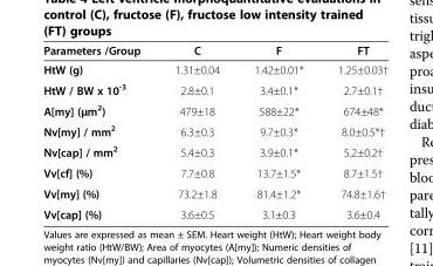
<table><thead><tr><td>Parameters /Group</td><td>C</td><td>F</td><td>FT</td></tr></thead><tbody><tr><td>HtW (g)</td><td>1.31±0.04</td><td>1.42±0.01*</td><td>1.25±0.03†</td></tr><tr><td>HtW / BW x 10<sup>-3</sup></td><td>2.8±0.1</td><td>3.4±0.1*</td><td>2.7±0.1†</td></tr><tr><td>A[my] (μm<sup>2</sup>)</td><td>479±18</td><td>588±22*</td><td>674±48*</td></tr><tr><td>Nv[my] / mm<sup>2</sup></td><td>6.3±0.3</td><td>9.7±0.3*</td><td>8.0±0.5*†</td></tr><tr><td>Nv[cap] / mm<sup>2</sup></td><td>5.4±0.3</td><td>3.9±0.1*</td><td>5.2±0.2†</td></tr><tr><td>Vv[cf] (%)</td><td>7.7±0.8</td><td>13.7±1.5*</td><td>8.7±1.5†</td></tr><tr><td>Vv[my] (%)</td><td>73.2±1.8</td><td>81.4±1.2*</td><td>74.8±1.6†</td></tr><tr><td>Vv[cap] (%)</td><td>3.6±0.5</td><td>3.1±0.3</td><td>3.6±0.4</td></tr></tbody></table>